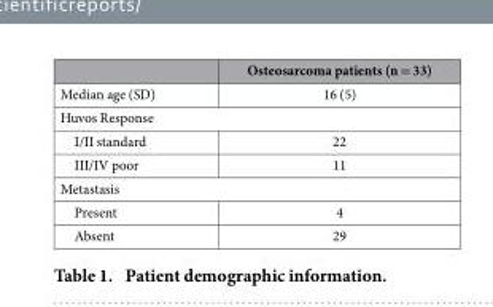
<table><thead><tr><td></td><td>Osteosarcoma patients (n = 33)</td></tr></thead><tbody><tr><td>Median age (SD)</td><td>16 (5)</td></tr><tr><td colspan="2">Huvos Response</td></tr><tr><td>I/II standard</td><td>22</td></tr><tr><td>III/IV poor</td><td>11</td></tr><tr><td colspan="2">Metastasis</td></tr><tr><td>Present</td><td>4</td></tr><tr><td>Absent</td><td>29</td></tr></tbody></table>